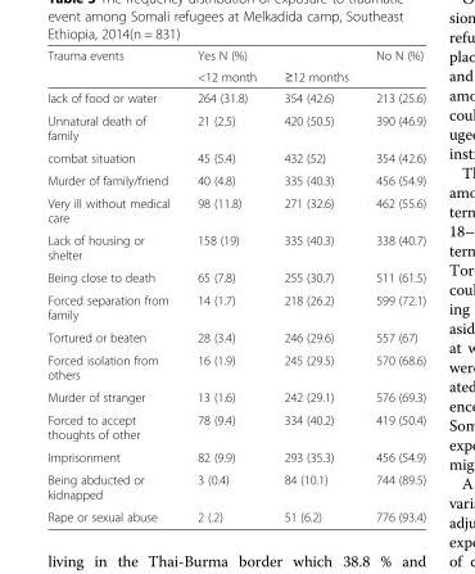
<table><thead><tr><td rowspan="2">Trauma events</td><td colspan="2">Yes N (%)</td><td rowspan="2">No N (%)</td></tr><tr><td>&lt;12 month</td><td>≥12 months</td></tr></thead><tbody><tr><td>lack of food or water</td><td>264 (31.8)</td><td>354 (42.6)</td><td>213 (25.6)</td></tr><tr><td>Unnatural death of family</td><td>21 (2.5)</td><td>420 (50.5)</td><td>390 (46.9)</td></tr><tr><td>combat situation</td><td>45 (5.4)</td><td>432 (52)</td><td>354 (42.6)</td></tr><tr><td>Murder of family/friend</td><td>40 (4.8)</td><td>335 (40.3)</td><td>456 (54.9)</td></tr><tr><td>Very ill without medical care</td><td>98 (11.8)</td><td>271 (32.6)</td><td>462 (55.6)</td></tr><tr><td>Lack of housing or shelter</td><td>158 (19)</td><td>335 (40.3)</td><td>338 (40.7)</td></tr><tr><td>Being close to death</td><td>65 (7.8)</td><td>255 (30.7)</td><td>511 (61.5)</td></tr><tr><td>Forced separation from family</td><td>14 (1.7)</td><td>218 (26.2)</td><td>599 (72.1)</td></tr><tr><td>Tortured or beaten</td><td>28 (3.4)</td><td>246 (29.6)</td><td>557 (67)</td></tr><tr><td>Forced isolation from others</td><td>16 (1.9)</td><td>245 (29.5)</td><td>570 (68.6)</td></tr><tr><td>Murder of stranger</td><td>13 (1.6)</td><td>242 (29.1)</td><td>576 (69.3)</td></tr><tr><td>Forced to accept thoughts of other</td><td>78 (9.4)</td><td>334 (40.2)</td><td>419 (50.4)</td></tr><tr><td>Imprisonment</td><td>82 (9.9)</td><td>293 (35.3)</td><td>456 (54.9)</td></tr><tr><td>Being abducted or kidnapped</td><td>3 (0.4)</td><td>84 (10.1)</td><td>744 (89.5)</td></tr><tr><td>Rape or sexual abuse</td><td>2 (.2)</td><td>51 (6.2)</td><td>776 (93.4)</td></tr></tbody></table>